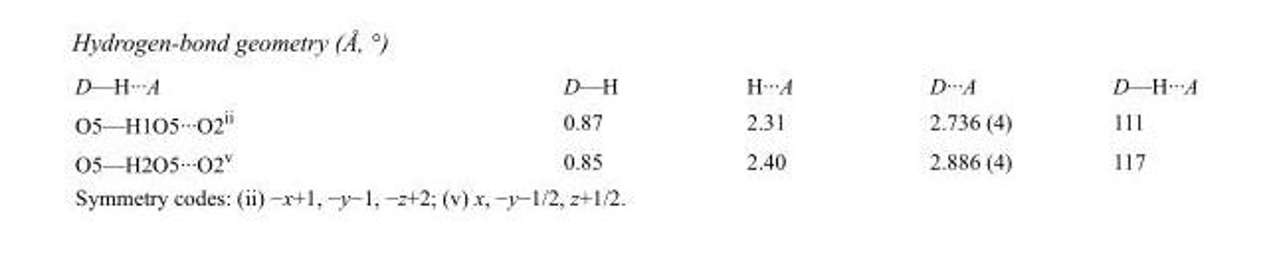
<table><tbody><tr><td>D—H···A</td><td>D—H</td><td>H···A</td><td>D···A</td><td>D—H···A</td></tr><tr><td>O5—H1O5···O2<sup>ii</sup></td><td>0.87</td><td>2.31</td><td>2.736 (4)</td><td>111</td></tr><tr><td>O5—H2O5···O2<sup>v</sup></td><td>0.85</td><td>2.40</td><td>2.886 (4)</td><td>117</td></tr></tbody></table>